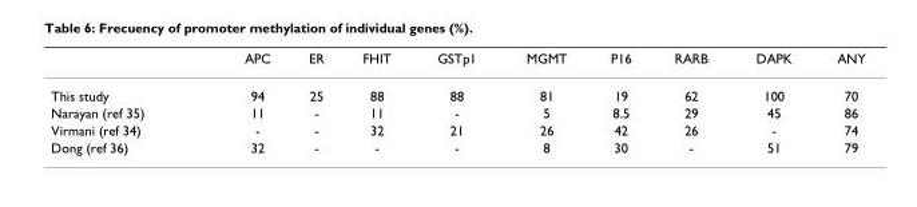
<table><thead><tr><td></td><td>APC</td><td>ER</td><td>FHIT</td><td>GSTp1</td><td>MGMT</td><td>P16</td><td>RARB</td><td>DAPK</td><td>ANY</td></tr></thead><tbody><tr><td>This study</td><td>94</td><td>25</td><td>88</td><td>88</td><td>81</td><td>19</td><td>62</td><td>100</td><td>70</td></tr><tr><td>Narayan (ref 35)</td><td>11</td><td>-</td><td>11</td><td>-</td><td>5</td><td>8.5</td><td>29</td><td>45</td><td>86</td></tr><tr><td>Virmani (ref 34)</td><td>-</td><td>-</td><td>32</td><td>21</td><td>26</td><td>42</td><td>26</td><td>-</td><td>74</td></tr><tr><td>Dong (ref 36)</td><td>32</td><td>-</td><td>-</td><td>-</td><td>8</td><td>30</td><td>-</td><td>51</td><td>79</td></tr></tbody></table>